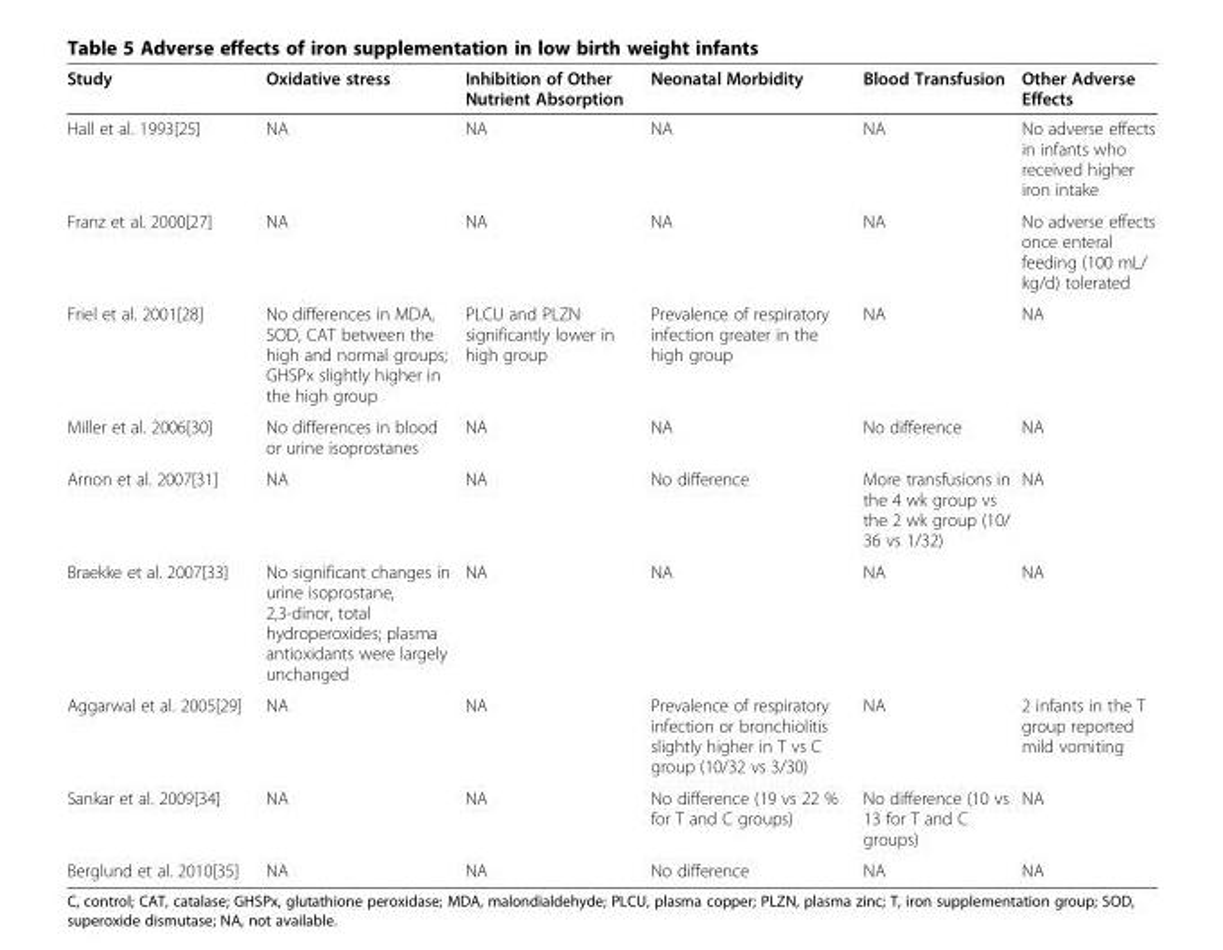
<table><thead><tr><td>Study</td><td>Oxidative stress</td><td>Inhibition of Other Nutrient Absorption</td><td>Neonatal Morbidity</td><td>Blood Transfusion</td><td>Other Adverse Effects</td></tr></thead><tbody><tr><td>Hall et al. 1993[25]</td><td>NA</td><td>NA</td><td>NA</td><td>NA</td><td>No adverse effects in infants who received higher iron intake</td></tr><tr><td>Franz et al. 2000[27]</td><td>NA</td><td>NA</td><td>NA</td><td>NA</td><td>No adverse effects once enteral feeding (100 mL/ kg/d) tolerated</td></tr><tr><td>Friel et al. 2001[28]</td><td>No differences in MDA, SOD, CAT between the high and normal groups; GHSPx slightly higher in the high group</td><td>PLCU and PLZN significantly lower in high group</td><td>Prevalence of respiratory infection greater in the high group</td><td>NA</td><td>NA</td></tr><tr><td>Miller et al. 2006[30]</td><td>No differences in blood or urine isoprostanes</td><td>NA</td><td>NA</td><td>No difference</td><td>NA</td></tr><tr><td>Arnon et al. 2007[31]</td><td>NA</td><td>NA</td><td>No difference</td><td>More transfusions in the 4 wk group vs the 2 wk group (10/ 36 vs 1/32)</td><td>NA</td></tr><tr><td>Braekke et al. 2007[33]</td><td>No significant changes in urine isoprostane, 2,3-dinor, total hydroperoxides; plasma antioxidants were largely unchanged</td><td>NA</td><td>NA</td><td>NA</td><td>NA</td></tr><tr><td>Aggarwal et al. 2005[29]</td><td>NA</td><td>NA</td><td>Prevalence of respiratory infection or bronchiolitis slightly higher in T vs C group (10/32 vs 3/30)</td><td>NA</td><td>2 infants in the T group reported mild vomiting</td></tr><tr><td>Sankar et al. 2009[34]</td><td>NA</td><td>NA</td><td>No difference (19 vs 22 % for T and C groups)</td><td>No difference (10 vs 13 for T and C groups)</td><td>NA</td></tr><tr><td>Berglund et al. 2010[35]</td><td>NA</td><td>NA</td><td>No difference</td><td>NA</td><td>NA</td></tr></tbody></table>